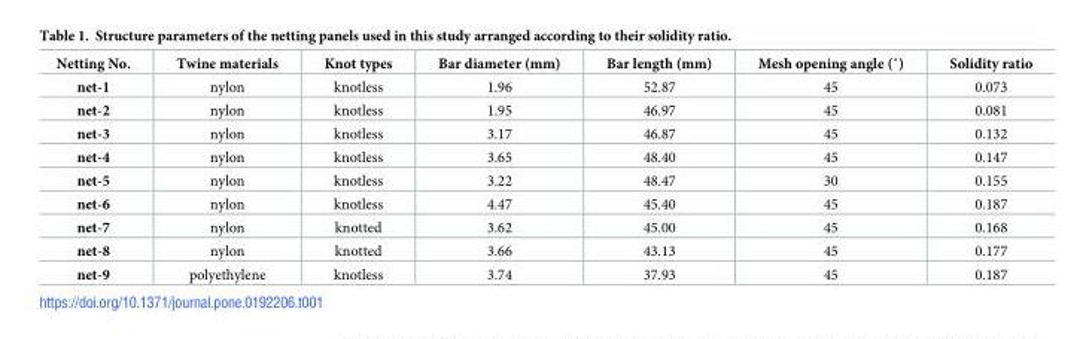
<table><thead><tr><td>Netting No.</td><td>Twine materials</td><td>Knot types</td><td>Bar diameter (mm)</td><td>Bar length (mm)</td><td>Mesh opening angle (˚)</td><td>Solidity ratio</td></tr></thead><tbody><tr><td>net-1</td><td>nylon</td><td>knotless</td><td>1.96</td><td>52.87</td><td>45</td><td>0.073</td></tr><tr><td>net-2</td><td>nylon</td><td>knotless</td><td>1.95</td><td>46.97</td><td>45</td><td>0.081</td></tr><tr><td>net-3</td><td>nylon</td><td>knotless</td><td>3.17</td><td>46.87</td><td>45</td><td>0.132</td></tr><tr><td>net-4</td><td>nylon</td><td>knotless</td><td>3.65</td><td>48.40</td><td>45</td><td>0.147</td></tr><tr><td>net-5</td><td>nylon</td><td>knotless</td><td>3.22</td><td>48.47</td><td>30</td><td>0.155</td></tr><tr><td>net-6</td><td>nylon</td><td>knotless</td><td>4.47</td><td>45.40</td><td>45</td><td>0.187</td></tr><tr><td>net-7</td><td>nylon</td><td>knotted</td><td>3.62</td><td>45.00</td><td>45</td><td>0.168</td></tr><tr><td>net-8</td><td>nylon</td><td>knotted</td><td>3.66</td><td>43.13</td><td>45</td><td>0.177</td></tr><tr><td>net-9</td><td>polyethylene</td><td>knotless</td><td>3.74</td><td>37.93</td><td>45</td><td>0.187</td></tr></tbody></table>